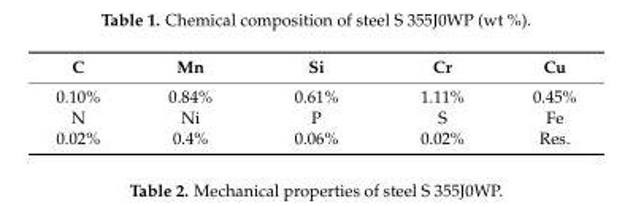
<table><thead><tr><td>C</td><td>Mn</td><td>Si</td><td>Cr</td><td>Cu</td></tr></thead><tbody><tr><td>0.10%</td><td>0.84%</td><td>0.61%</td><td>1.11%</td><td>0.45%</td></tr><tr><td>N</td><td>Ni</td><td>P</td><td>S</td><td>Fe</td></tr><tr><td>0.02%</td><td>0.4%</td><td>0.06%</td><td>0.02%</td><td>Res.</td></tr></tbody></table>